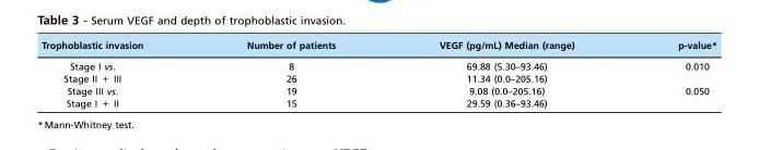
<table><thead><tr><td>Trophoblastic invasion</td><td>Number of patients</td><td>VEGF (pg/mL) Median (range)</td><td>p-value*</td></tr></thead><tbody><tr><td>Stage I vs.</td><td>8</td><td>69.88 (5.30–93.46)</td><td>0.010</td></tr><tr><td>Stage II + III</td><td>26</td><td>11.34 (0.0–205.16)</td><td></td></tr><tr><td>Stage III vs.</td><td>19</td><td>9.08 (0.0–205.16)</td><td>0.050</td></tr><tr><td>Stage I + II</td><td>15</td><td>29.59 (0.36–93.46)</td><td></td></tr></tbody></table>